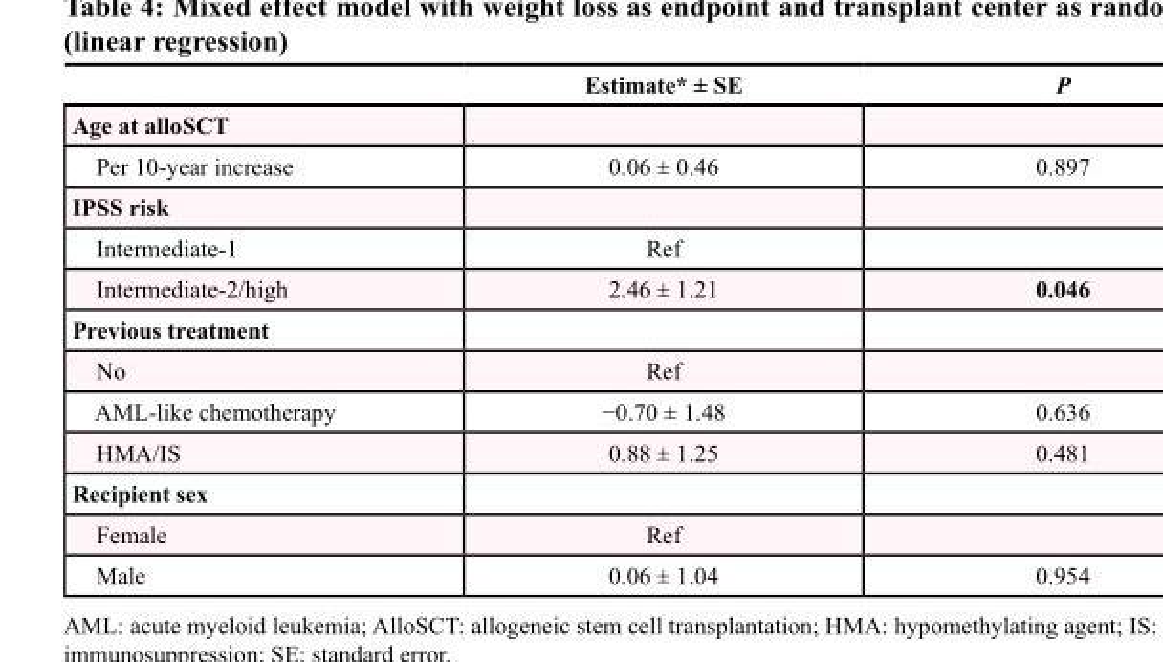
<table><thead><tr><td></td><td>Estimate* ± SE</td><td>P</td></tr></thead><tbody><tr><td colspan="3">Age at alloSCT</td></tr><tr><td>Per 10-year increase</td><td>0.06 ± 0.46</td><td>0.897</td></tr><tr><td colspan="3">IPSS risk</td></tr><tr><td>Intermediate-1</td><td>Ref</td><td></td></tr><tr><td>Intermediate-2/high</td><td>2.46 ± 1.21</td><td>0.046</td></tr><tr><td colspan="3">Previous treatment</td></tr><tr><td>No</td><td>Ref</td><td></td></tr><tr><td>AML-like chemotherapy</td><td>−0.70 ± 1.48</td><td>0.636</td></tr><tr><td>HMA/IS</td><td>0.88 ± 1.25</td><td>0.481</td></tr><tr><td colspan="3">Recipient sex</td></tr><tr><td>Female</td><td>Ref</td><td></td></tr><tr><td>Male</td><td>0.06 ± 1.04</td><td>0.954</td></tr></tbody></table>